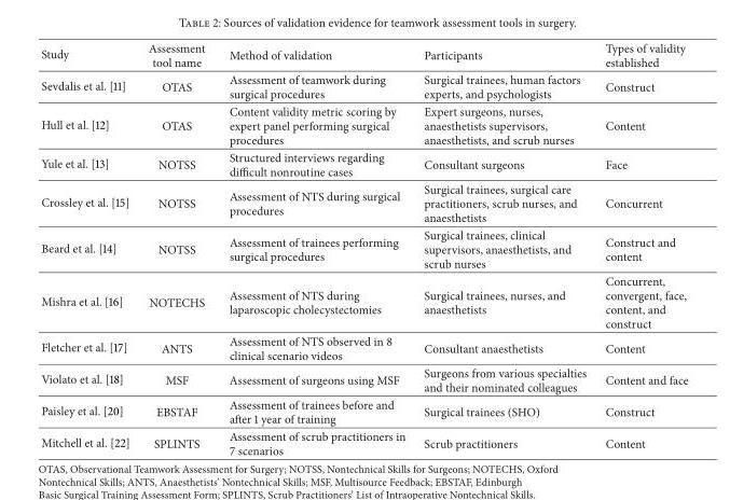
<table><thead><tr><td>Study</td><td>Assessment tool name</td><td>Method of validation</td><td>Participants</td><td>Types of validity established</td></tr></thead><tbody><tr><td>Sevdalis et al. [11]</td><td>OTAS</td><td>Assessment of teamwork during surgical procedures</td><td>Surgical trainees, human factors experts, and psychologists</td><td>Construct</td></tr><tr><td>Hull et al. [12]</td><td>OTAS</td><td>Content validity metric scoring by expert panel performing surgical procedures</td><td>Expert surgeons, nurses, anaesthetists supervisors, anaesthetists, and scrub nurses</td><td>Content</td></tr><tr><td>Yule et al. [13]</td><td>NOTSS</td><td>Structured interviews regarding difficult nonroutine cases</td><td>Consultant surgeons</td><td>Face</td></tr><tr><td>Crossley et al. [15]</td><td>NOTSS</td><td>Assessment of NTS during surgical procedures</td><td>Surgical trainees, surgical care practitioners, scrub nurses, and anaesthetists</td><td>Concurrent</td></tr><tr><td>Beard et al. [14]</td><td>NOTSS</td><td>Assessment of trainees performing surgical procedures</td><td>Surgical trainees, clinical supervisors, anaesthetists, and scrub nurses</td><td>Construct and content</td></tr><tr><td>Mishra et al. [16]</td><td>NOTECHS</td><td>Assessment of NTS during laparoscopic cholecystectomies</td><td>Surgical trainees, nurses, and anaesthetists</td><td>Concurrent, convergent, face, content, and construct</td></tr><tr><td>Fletcher et al. [17]</td><td>ANTS</td><td>Assessment of NTS observed in 8 clinical scenario videos</td><td>Consultant anaesthetists</td><td>Content</td></tr><tr><td>Violato et al. [18]</td><td>MSF</td><td>Assessment of surgeons using MSF</td><td>Surgeons from various specialties and their nominated colleagues</td><td>Content and face</td></tr><tr><td>Paisley et al. [20]</td><td>EBSTAF</td><td>Assessment of trainees before and after 1 year of training</td><td>Surgical trainees (SHO)</td><td>Construct</td></tr><tr><td>Mitchell et al. [22]</td><td>SPLINTS</td><td>Assessment of scrub practitioners in 7 scenarios</td><td>Scrub practitioners</td><td>Content</td></tr></tbody></table>